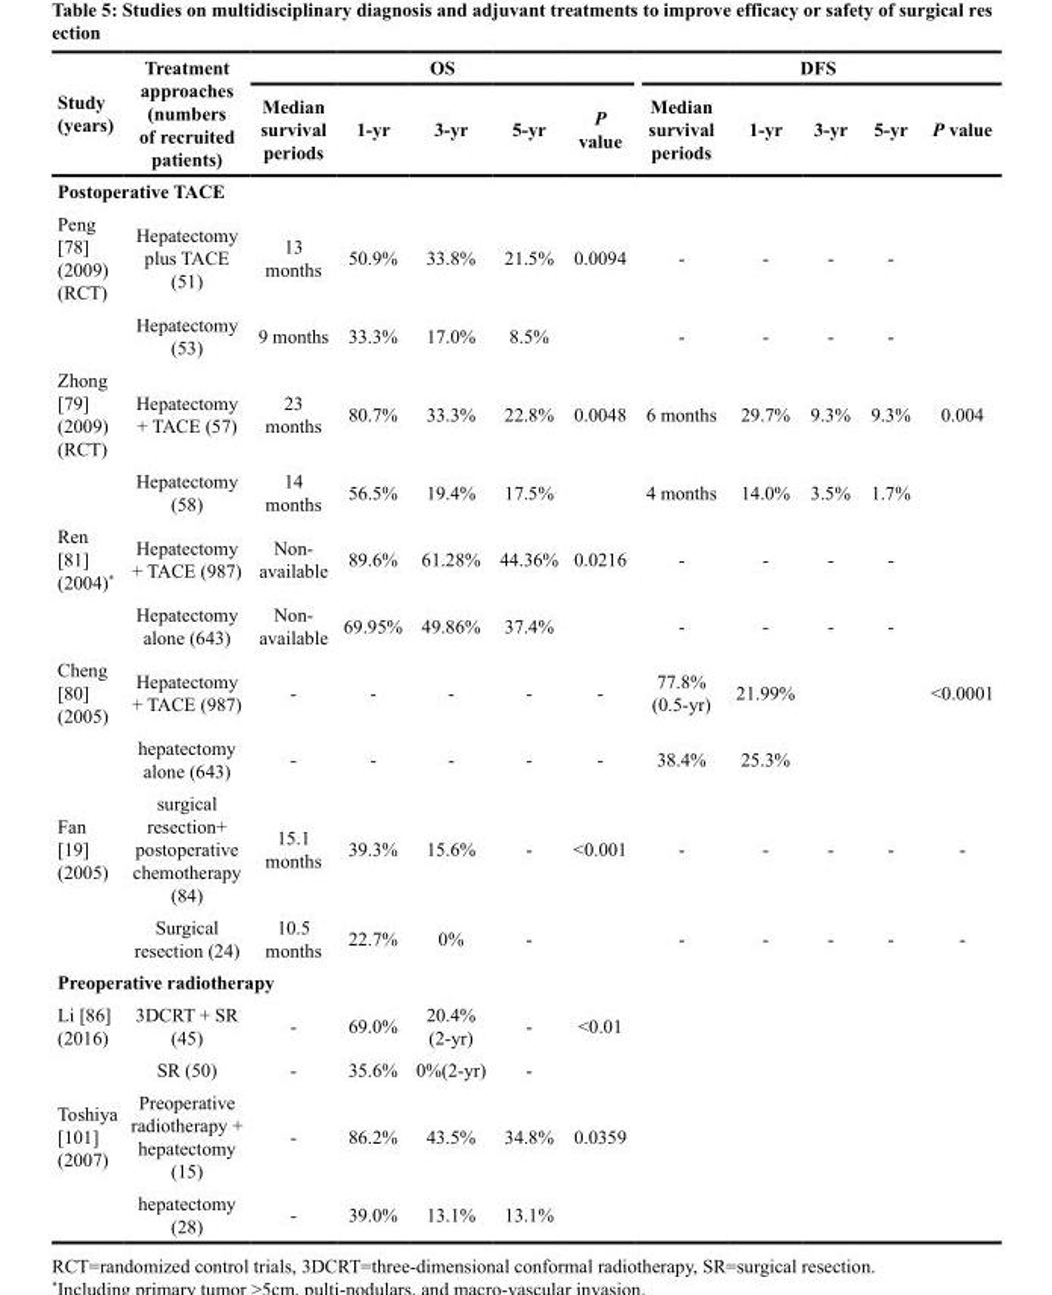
<table><thead><tr><td rowspan="2">Study (years)</td><td rowspan="2">Treatment approaches (numbers of recruited patients)</td><td colspan="5">OS</td><td colspan="5">DFS</td></tr><tr><td>Median survival periods</td><td>1-yr</td><td>3-yr</td><td>5-yr</td><td>P value</td><td>Median survival periods</td><td>1-yr</td><td>3-yr</td><td>5-yr</td><td>P value</td></tr></thead><tbody><tr><td colspan="12">Postoperative TACE</td></tr><tr><td rowspan="2">Peng [78] (2009) (RCT)</td><td>Hepatectomy plus TACE (51)</td><td>13 months</td><td>50.9%</td><td>33.8%</td><td>21.5%</td><td>0.0094</td><td>-</td><td>-</td><td>-</td><td>-</td><td></td></tr><tr><td>Hepatectomy (53)</td><td>9 months</td><td>33.3%</td><td>17.0%</td><td>8.5%</td><td></td><td>-</td><td>-</td><td>-</td><td>-</td><td></td></tr><tr><td rowspan="2">Zhong [79] (2009) (RCT)</td><td>Hepatectomy + TACE (57)</td><td>23 months</td><td>80.7%</td><td>33.3%</td><td>22.8%</td><td>0.0048</td><td>6 months</td><td>29.7%</td><td>9.3%</td><td>9.3%</td><td>0.004</td></tr><tr><td>Hepatectomy (58)</td><td>14 months</td><td>56.5%</td><td>19.4%</td><td>17.5%</td><td></td><td>4 months</td><td>14.0%</td><td>3.5%</td><td>1.7%</td><td></td></tr><tr><td rowspan="2">Ren [81] (2004)*</td><td>Hepatectomy + TACE (987)</td><td>Non- available</td><td>89.6%</td><td>61.28%</td><td>44.36%</td><td>0.0216</td><td>-</td><td>-</td><td>-</td><td>-</td><td></td></tr><tr><td>Hepatectomy alone (643)</td><td>Non- available</td><td>69.95%</td><td>49.86%</td><td>37.4%</td><td></td><td>-</td><td>-</td><td>-</td><td>-</td><td></td></tr><tr><td rowspan="2">Cheng [80] (2005)</td><td>Hepatectomy + TACE (987)</td><td>-</td><td>-</td><td>-</td><td>-</td><td>-</td><td>77.8% (0.5-yr)</td><td>21.99%</td><td></td><td></td><td>&lt;0.0001</td></tr><tr><td>hepatectomy alone (643)</td><td>-</td><td>-</td><td>-</td><td>-</td><td>-</td><td>38.4%</td><td>25.3%</td><td></td><td></td><td></td></tr><tr><td rowspan="2">Fan [19] (2005)</td><td>surgical resection+ postoperative chemotherapy (84)</td><td>15.1 months</td><td>39.3%</td><td>15.6%</td><td>-</td><td>&lt;0.001</td><td>-</td><td>-</td><td>-</td><td>-</td><td>-</td></tr><tr><td>Surgical resection (24)</td><td>10.5 months</td><td>22.7%</td><td>0%</td><td>-</td><td></td><td>-</td><td>-</td><td>-</td><td>-</td><td>-</td></tr><tr><td colspan="12">Preoperative radiotherapy</td></tr><tr><td rowspan="2">Li [86] (2016)</td><td>3DCRT + SR (45)</td><td>-</td><td>69.0%</td><td>20.4% (2-yr)</td><td>-</td><td>&lt;0.01</td><td></td><td></td><td></td><td></td><td></td></tr><tr><td>SR (50)</td><td>-</td><td>35.6%</td><td>0%(2-yr)</td><td>-</td><td></td><td></td><td></td><td></td><td></td><td></td></tr><tr><td rowspan="2">Toshiya [101] (2007)</td><td>Preoperative radiotherapy + hepatectomy (15)</td><td>-</td><td>86.2%</td><td>43.5%</td><td>34.8%</td><td>0.0359</td><td></td><td></td><td></td><td></td><td></td></tr><tr><td>hepatectomy (28)</td><td>-</td><td>39.0%</td><td>13.1%</td><td>13.1%</td><td></td><td></td><td></td><td></td><td></td><td></td></tr></tbody></table>